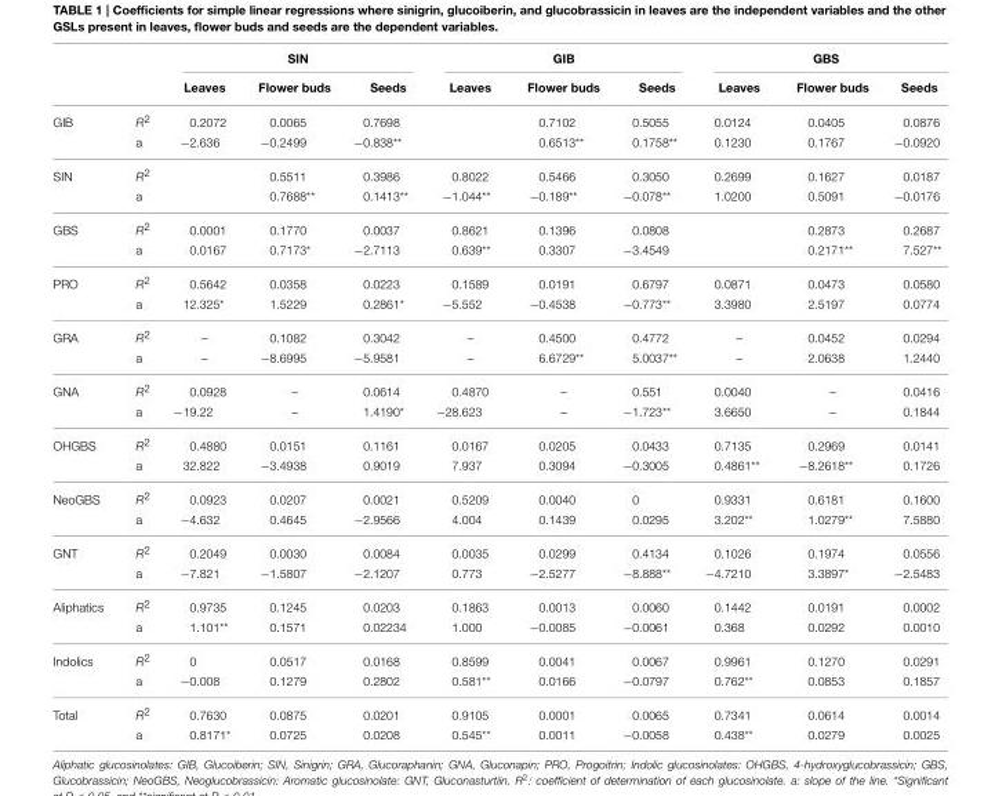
<table><thead><tr><td rowspan="2"></td><td rowspan="2"></td><td colspan="3">SIN</td><td colspan="3">GIB</td><td colspan="3">GBS</td></tr><tr><td>Leaves</td><td>Flower buds</td><td>Seeds</td><td>Leaves</td><td>Flower buds</td><td>Seeds</td><td>Leaves</td><td>Flower buds</td><td>Seeds</td></tr></thead><tbody><tr><td rowspan="2">GIB</td><td>R<sup>2</sup></td><td>0.2072</td><td>0.0065</td><td>0.7698</td><td></td><td>0.7102</td><td>0.5055</td><td>0.0124</td><td>0.0405</td><td>0.0876</td></tr><tr><td>a</td><td>−2.636</td><td>−0.2499</td><td>−0.838**</td><td></td><td>0.6513**</td><td>0.1758**</td><td>0.1230</td><td>0.1767</td><td>−0.0920</td></tr><tr><td rowspan="2">SIN</td><td>R<sup>2</sup></td><td></td><td>0.5511</td><td>0.3986</td><td>0.8022</td><td>0.5466</td><td>0.3050</td><td>0.2699</td><td>0.1627</td><td>0.0187</td></tr><tr><td>a</td><td></td><td>0.7688**</td><td>0.1413**</td><td>−1.044**</td><td>−0.189**</td><td>−0.078**</td><td>1.0200</td><td>0.5091</td><td>−0.0176</td></tr><tr><td rowspan="2">GBS</td><td>R<sup>2</sup></td><td>0.0001</td><td>0.1770</td><td>0.0037</td><td>0.8621</td><td>0.1396</td><td>0.0808</td><td></td><td>0.2873</td><td>0.2687</td></tr><tr><td>a</td><td>0.0167</td><td>0.7173*</td><td>−2.7113</td><td>0.639**</td><td>0.3307</td><td>−3.4549</td><td></td><td>0.2171**</td><td>7.527**</td></tr><tr><td rowspan="2">PRO</td><td>R<sup>2</sup></td><td>0.5642</td><td>0.0358</td><td>0.0223</td><td>0.1589</td><td>0.0191</td><td>0.6797</td><td>0.0871</td><td>0.0473</td><td>0.0580</td></tr><tr><td>a</td><td>12.325*</td><td>1.5229</td><td>0.2861*</td><td>−5.552</td><td>−0.4538</td><td>−0.773**</td><td>3.3980</td><td>2.5197</td><td>0.0774</td></tr><tr><td rowspan="2">GRA</td><td>R<sup>2</sup></td><td>–</td><td>0.1082</td><td>0.3042</td><td>–</td><td>0.4500</td><td>0.4772</td><td>–</td><td>0.0452</td><td>0.0294</td></tr><tr><td>a</td><td>–</td><td>−8.6995</td><td>−5.9581</td><td>–</td><td>6.6729**</td><td>5.0037**</td><td>–</td><td>2.0638</td><td>1.2440</td></tr><tr><td rowspan="2">GNA</td><td>R<sup>2</sup></td><td>0.0928</td><td>–</td><td>0.0614</td><td>0.4870</td><td>–</td><td>0.551</td><td>0.0040</td><td>–</td><td>0.0416</td></tr><tr><td>a</td><td>−19.22</td><td>–</td><td>1.4190*</td><td>−28.623</td><td>–</td><td>−1.723**</td><td>3.6650</td><td>–</td><td>0.1844</td></tr><tr><td rowspan="2">OHGBS</td><td>R<sup>2</sup></td><td>0.4880</td><td>0.0151</td><td>0.1161</td><td>0.0167</td><td>0.0205</td><td>0.0433</td><td>0.7135</td><td>0.2969</td><td>0.0141</td></tr><tr><td>a</td><td>32.822</td><td>−3.4938</td><td>0.9019</td><td>7.937</td><td>0.3094</td><td>−0.3005</td><td>0.4861**</td><td>−8.2618**</td><td>0.1726</td></tr><tr><td rowspan="2">NeoGBS</td><td>R<sup>2</sup></td><td>0.0923</td><td>0.0207</td><td>0.0021</td><td>0.5209</td><td>0.0040</td><td>0</td><td>0.9331</td><td>0.6181</td><td>0.1600</td></tr><tr><td>a</td><td>−4.632</td><td>0.4645</td><td>−2.9566</td><td>4.004</td><td>0.1439</td><td>0.0295</td><td>3.202**</td><td>1.0279**</td><td>7.5880</td></tr><tr><td rowspan="2">GNT</td><td>R<sup>2</sup></td><td>0.2049</td><td>0.0030</td><td>0.0084</td><td>0.0035</td><td>0.0299</td><td>0.4134</td><td>0.1026</td><td>0.1974</td><td>0.0556</td></tr><tr><td>a</td><td>−7.821</td><td>−1.5807</td><td>−2.1207</td><td>0.773</td><td>−2.5277</td><td>−8.888**</td><td>−4.7210</td><td>3.3897*</td><td>−2.5483</td></tr><tr><td rowspan="2">Aliphatics</td><td>R<sup>2</sup></td><td>0.9735</td><td>0.1245</td><td>0.0203</td><td>0.1863</td><td>0.0013</td><td>0.0060</td><td>0.1442</td><td>0.0191</td><td>0.0002</td></tr><tr><td>a</td><td>1.101**</td><td>0.1571</td><td>0.02234</td><td>1.000</td><td>−0.0085</td><td>−0.0061</td><td>0.368</td><td>0.0292</td><td>0.0010</td></tr><tr><td rowspan="2">Indolics</td><td>R<sup>2</sup></td><td>0</td><td>0.0517</td><td>0.0168</td><td>0.8599</td><td>0.0041</td><td>0.0067</td><td>0.9961</td><td>0.1270</td><td>0.0291</td></tr><tr><td>a</td><td>−0.008</td><td>0.1279</td><td>0.2802</td><td>0.581**</td><td>0.0166</td><td>−0.0797</td><td>0.762**</td><td>0.0853</td><td>0.1857</td></tr><tr><td rowspan="2">Total</td><td>R<sup>2</sup></td><td>0.7630</td><td>0.0875</td><td>0.0201</td><td>0.9105</td><td>0.0001</td><td>0.0065</td><td>0.7341</td><td>0.0614</td><td>0.0014</td></tr><tr><td>a</td><td>0.8171*</td><td>0.0725</td><td>0.0208</td><td>0.545**</td><td>0.0011</td><td>−0.0058</td><td>0.438**</td><td>0.0279</td><td>0.0025</td></tr></tbody></table>